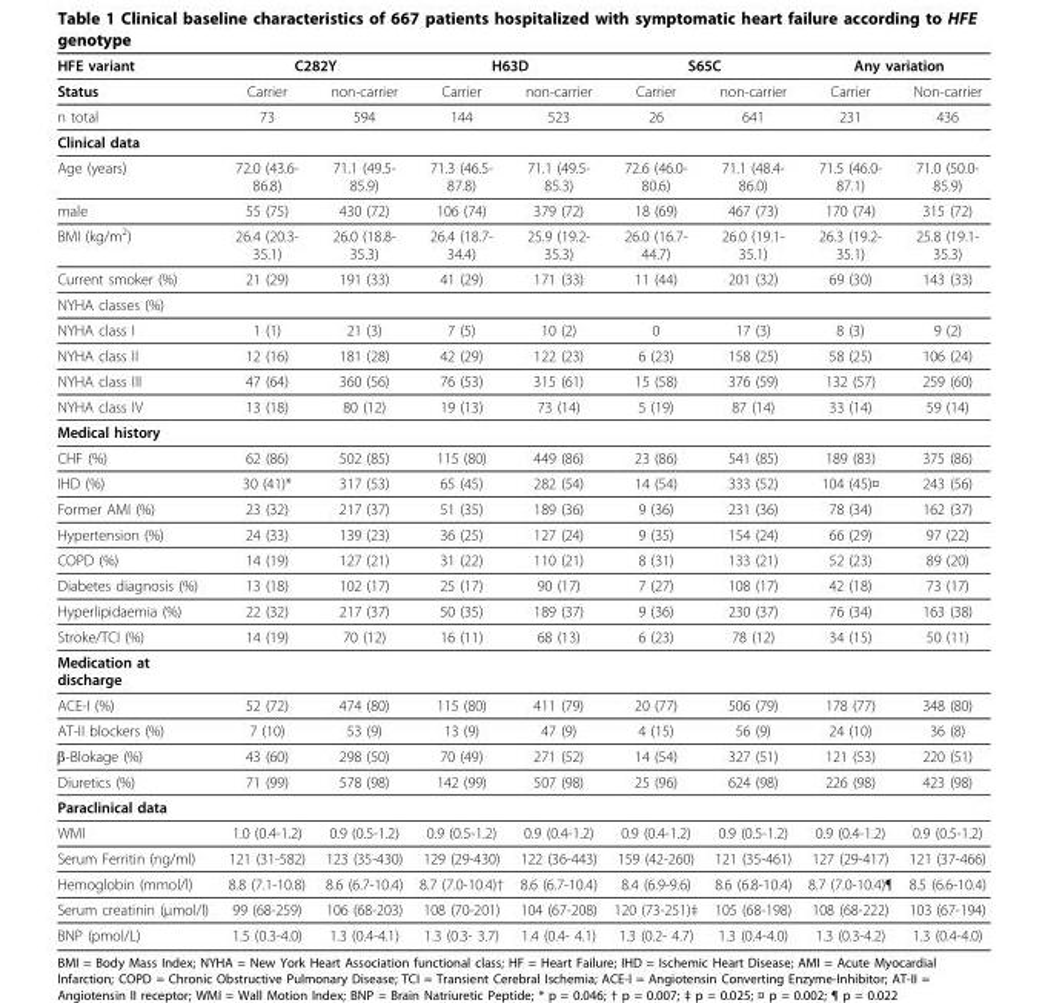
<table><thead><tr><td rowspan="2">HFE variant Status</td><td colspan="2">C282Y</td><td colspan="2">H63D</td><td colspan="2">S65C</td><td colspan="2">Any variation</td></tr><tr><td>Carrier</td><td>non-carrier</td><td>Carrier</td><td>non-carrier</td><td>Carrier</td><td>non-carrier</td><td>Carrier</td><td>Non-carrier</td></tr></thead><tbody><tr><td>n total</td><td>73</td><td>594</td><td>144</td><td>523</td><td>26</td><td>641</td><td>231</td><td>436</td></tr><tr><td colspan="9">Clinical data</td></tr><tr><td>Age (years)</td><td>72.0 (43.6- 86.8)</td><td>71.1 (49.5- 85.9)</td><td>71.3 (46.5- 87.8)</td><td>71.1 (49.5- 85.3)</td><td>72.6 (46.0- 80.6)</td><td>71.1 (48.4- 86.0)</td><td>71.5 (46.0- 87.1)</td><td>71.0 (50.0- 85.9)</td></tr><tr><td>male</td><td>55 (75)</td><td>430 (72)</td><td>106 (74)</td><td>379 (72)</td><td>18 (69)</td><td>467 (73)</td><td>170 (74)</td><td>315 (72)</td></tr><tr><td>BMI (kg/m<sup>2</sup>)</td><td>26.4 (20.3- 35.1)</td><td>26.0 (18.8- 35.3)</td><td>26.4 (18.7- 34.4)</td><td>25.9 (19.2- 35.3)</td><td>26.0 (16.7- 44.7)</td><td>26.0 (19.1- 35.1)</td><td>26.3 (19.2- 35.1)</td><td>25.8 (19.1- 35.3)</td></tr><tr><td>Current smoker (%)</td><td>21 (29)</td><td>191 (33)</td><td>41 (29)</td><td>171 (33)</td><td>11 (44)</td><td>201 (32)</td><td>69 (30)</td><td>143 (33)</td></tr><tr><td colspan="9">NYHA classes (%)</td></tr><tr><td>NYHA class I</td><td>1 (1)</td><td>21 (3)</td><td>7 (5)</td><td>10 (2)</td><td>0</td><td>17 (3)</td><td>8 (3)</td><td>9 (2)</td></tr><tr><td>NYHA class II</td><td>12 (16)</td><td>181 (28)</td><td>42 (29)</td><td>122 (23)</td><td>6 (23)</td><td>158 (25)</td><td>58 (25)</td><td>106 (24)</td></tr><tr><td>NYHA class III</td><td>47 (64)</td><td>360 (56)</td><td>76 (53)</td><td>315 (61)</td><td>15 (58)</td><td>376 (59)</td><td>132 (57)</td><td>259 (60)</td></tr><tr><td>NYHA class IV</td><td>13 (18)</td><td>80 (12)</td><td>19 (13)</td><td>73 (14)</td><td>5 (19)</td><td>87 (14)</td><td>33 (14)</td><td>59 (14)</td></tr><tr><td colspan="9">Medical history</td></tr><tr><td>CHF (%)</td><td>62 (86)</td><td>502 (85)</td><td>115 (80)</td><td>449 (86)</td><td>23 (86)</td><td>541 (85)</td><td>189 (83)</td><td>375 (86)</td></tr><tr><td>IHD (%)</td><td>30 (41)*</td><td>317 (53)</td><td>65 (45)</td><td>282 (54)</td><td>14 (54)</td><td>333 (52)</td><td>104 (45)¤</td><td>243 (56)</td></tr><tr><td>Former AMI (%)</td><td>23 (32)</td><td>217 (37)</td><td>51 (35)</td><td>189 (36)</td><td>9 (36)</td><td>231 (36)</td><td>78 (34)</td><td>162 (37)</td></tr><tr><td>Hypertension (%)</td><td>24 (33)</td><td>139 (23)</td><td>36 (25)</td><td>127 (24)</td><td>9 (35)</td><td>154 (24)</td><td>66 (29)</td><td>97 (22)</td></tr><tr><td>COPD (%)</td><td>14 (19)</td><td>127 (21)</td><td>31 (22)</td><td>110 (21)</td><td>8 (31)</td><td>133 (21)</td><td>52 (23)</td><td>89 (20)</td></tr><tr><td>Diabetes diagnosis (%)</td><td>13 (18)</td><td>102 (17)</td><td>25 (17)</td><td>90 (17)</td><td>7 (27)</td><td>108 (17)</td><td>42 (18)</td><td>73 (17)</td></tr><tr><td>Hyperlipidaemia (%)</td><td>22 (32)</td><td>217 (37)</td><td>50 (35)</td><td>189 (37)</td><td>9 (36)</td><td>230 (37)</td><td>76 (34)</td><td>163 (38)</td></tr><tr><td>Stroke/TCI (%)</td><td>14 (19)</td><td>70 (12)</td><td>16 (11)</td><td>68 (13)</td><td>6 (23)</td><td>78 (12)</td><td>34 (15)</td><td>50 (11)</td></tr><tr><td colspan="9">Medication at discharge</td></tr><tr><td>ACE-I (%)</td><td>52 (72)</td><td>474 (80)</td><td>115 (80)</td><td>411 (79)</td><td>20 (77)</td><td>506 (79)</td><td>178 (77)</td><td>348 (80)</td></tr><tr><td>AT-II blockers (%)</td><td>7 (10)</td><td>53 (9)</td><td>13 (9)</td><td>47 (9)</td><td>4 (15)</td><td>56 (9)</td><td>24 (10)</td><td>36 (8)</td></tr><tr><td>β-Blokage (%)</td><td>43 (60)</td><td>298 (50)</td><td>70 (49)</td><td>271 (52)</td><td>14 (54)</td><td>327 (51)</td><td>121 (53)</td><td>220 (51)</td></tr><tr><td>Diuretics (%)</td><td>71 (99)</td><td>578 (98)</td><td>142 (99)</td><td>507 (98)</td><td>25 (96)</td><td>624 (98)</td><td>226 (98)</td><td>423 (98)</td></tr><tr><td colspan="9">Paraclinical data</td></tr><tr><td>WMI</td><td>1.0 (0.4-1.2)</td><td>0.9 (0.5-1.2)</td><td>0.9 (0.5-1.2)</td><td>0.9 (0.4-1.2)</td><td>0.9 (0.4-1.2)</td><td>0.9 (0.5-1.2)</td><td>0.9 (0.4-1.2)</td><td>0.9 (0.5-1.2)</td></tr><tr><td>Serum Ferritin (ng/ml)</td><td>121 (31-582)</td><td>123 (35-430)</td><td>129 (29-430)</td><td>122 (36-443)</td><td>159 (42-260)</td><td>121 (35-461)</td><td>127 (29-417)</td><td>121 (37-466)</td></tr><tr><td>Hemoglobin (mmol/l)</td><td>8.8 (7.1-10.8)</td><td>8.6 (6.7-10.4)</td><td>8.7 (7.0-10.4)†</td><td>8.6 (6.7-10.4)</td><td>8.4 (6.9-9.6)</td><td>8.6 (6.8-10.4)</td><td>8.7 (7.0-10.4)¶</td><td>8.5 (6.6-10.4)</td></tr><tr><td>Serum creatinin (μmol/l)</td><td>99 (68-259)</td><td>106 (68-203)</td><td>108 (70-201)</td><td>104 (67-208)</td><td>120 (73-251)‡</td><td>105 (68-198)</td><td>108 (68-222)</td><td>103 (67-194)</td></tr><tr><td>BNP (pmol/L)</td><td>1.5 (0.3-4.0)</td><td>1.3 (0.4-4.1)</td><td>1.3 (0.3- 3.7)</td><td>1.4 (0.4- 4.1)</td><td>1.3 (0.2- 4.7)</td><td>1.3 (0.4-4.0)</td><td>1.3 (0.3-4.2)</td><td>1.3 (0.4-4.0)</td></tr></tbody></table>